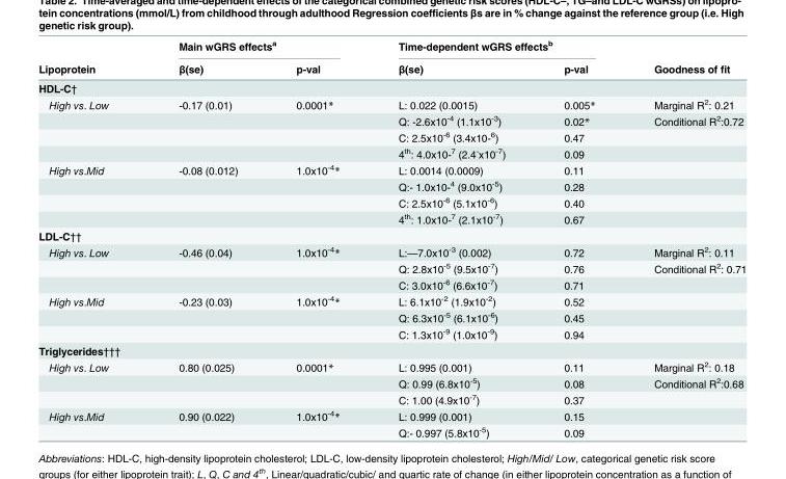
<table><thead><tr><td rowspan="2">Lipoprotein</td><td colspan="2">Main wGRS effects<sup>a</sup></td><td colspan="2">Time-dependent wGRS effects<sup>b</sup></td><td rowspan="2">Goodness of fit</td></tr><tr><td>β(se)</td><td>p-val</td><td>β(se)</td><td>p-val</td></tr></thead><tbody><tr><td colspan="6">HDL-C†</td></tr><tr><td rowspan="4">High vs. Low</td><td>-0.17 (0.01)</td><td>0.0001*</td><td>L: 0.022 (0.0015)</td><td>0.005*</td><td>Marginal R<sup>2</sup>: 0.21</td></tr><tr><td></td><td></td><td>Q: -2.6x10<sup>-4</sup> (1.1x10<sup>-3</sup>)</td><td>0.02*</td><td>Conditional R<sup>2</sup>:0.72</td></tr><tr><td></td><td></td><td>C: 2.5x10<sup>-6</sup> (3.4x10-<sup>6</sup>)</td><td>0.47</td><td></td></tr><tr><td></td><td></td><td>4<sup>th</sup>: 4.0x10-<sup>7</sup> (2.4<sup>-</sup>x10<sup>-7</sup>)</td><td>0.09</td><td></td></tr><tr><td rowspan="4">High vs.Mid</td><td>-0.08 (0.012)</td><td>1.0x10<sup>-4</sup>*</td><td>L: 0.0014 (0.0009)</td><td>0.11</td><td></td></tr><tr><td></td><td></td><td>Q:- 1.0x10-<sup>4</sup> (9.0x10<sup>-5</sup>)</td><td>0.28</td><td></td></tr><tr><td></td><td></td><td>C: 2.5x10<sup>-6</sup> (5.1x10<sup>-6</sup>)</td><td>0.40</td><td></td></tr><tr><td></td><td></td><td>4<sup>th</sup>: 1.0x10-<sup>7</sup> (2.1x10<sup>-7</sup>)</td><td>0.67</td><td></td></tr><tr><td colspan="6">LDL-C††</td></tr><tr><td rowspan="3">High vs. Low</td><td>-0.46 (0.04)</td><td>1.0x10<sup>-4</sup>*</td><td>L:—7.0x10<sup>-3</sup> (0.002)</td><td>0.72</td><td>Marginal R<sup>2</sup>: 0.11</td></tr><tr><td></td><td></td><td>Q: 2.8x10<sup>-5</sup> (9.5x10<sup>-7</sup>)</td><td>0.76</td><td>Conditional R<sup>2</sup>: 0.71</td></tr><tr><td></td><td></td><td>C: 3.0x10<sup>-6</sup> (6.6x10<sup>-7</sup>)</td><td>0.71</td><td></td></tr><tr><td rowspan="3">High vs.Mid</td><td>-0.23 (0.03)</td><td>1.0x10<sup>-4</sup>*</td><td>L: 6.1x10<sup>-2</sup> (1.9x10<sup>-2</sup>)</td><td>0.52</td><td></td></tr><tr><td></td><td></td><td>Q: 6.3x10<sup>-5</sup> (6.1x10<sup>-6</sup>)</td><td>0.45</td><td></td></tr><tr><td></td><td></td><td>C: 1.3x10<sup>-9</sup> (1.0x10<sup>-9</sup>)</td><td>0.94</td><td></td></tr><tr><td colspan="6">Triglycerides†††</td></tr><tr><td rowspan="3">High vs. Low</td><td>0.80 (0.025)</td><td>0.0001*</td><td>L: 0.995 (0.001)</td><td>0.11</td><td>Marginal R<sup>2</sup>: 0.18</td></tr><tr><td></td><td></td><td>Q: 0.99 (6.8x10<sup>-5</sup>)</td><td>0.08</td><td>Conditional R<sup>2</sup>:0.68</td></tr><tr><td></td><td></td><td>C: 1.00 (4.9x10<sup>-7</sup>)</td><td>0.37</td><td></td></tr><tr><td rowspan="2">High vs.Mid</td><td>0.90 (0.022)</td><td>1.0x10<sup>-4</sup>*</td><td>L: 0.999 (0.001)</td><td>0.15</td><td></td></tr><tr><td></td><td></td><td>Q:- 0.997 (5.8x10<sup>-5</sup>)</td><td>0.09</td><td></td></tr></tbody></table>